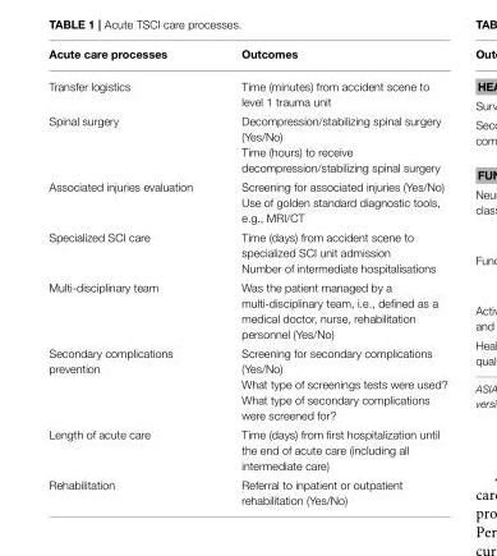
<table><thead><tr><td>Acute care processes</td><td>Outcomes</td></tr></thead><tbody><tr><td>Transfer logistics</td><td>Time (minutes) from accident scene to level 1 trauma unit</td></tr><tr><td>Spinal surgery</td><td>Decompression/stabilizing spinal surgery (Yes/No) Time (hours) to receive decompression/stabilizing spinal surgery</td></tr><tr><td>Associated injuries evaluation</td><td>Screening for associated injuries (Yes/No) Use of golden standard diagnostic tools, e.g., MRI/CT</td></tr><tr><td>Specialized SCI care</td><td>Time (days) from accident scene to specialized SCI unit admission Number of intermediate hospitalisations</td></tr><tr><td>Multi-disciplinary team</td><td>Was the patient managed by a multi-disciplinary team, i.e., defined as a medical doctor, nurse, rehabilitation personnel (Yes/No)</td></tr><tr><td>Secondary complications prevention</td><td>Screening for secondary complications (Yes/No) What type of screenings tests were used? What type of secondary complications were screened for?</td></tr><tr><td>Length of acute care</td><td>Time (days) from first hospitalization until the end of acute care (including all intermediate care)</td></tr><tr><td>Rehabilitation</td><td>Referral to inpatient or outpatient rehabilitation (Yes/No)</td></tr></tbody></table>